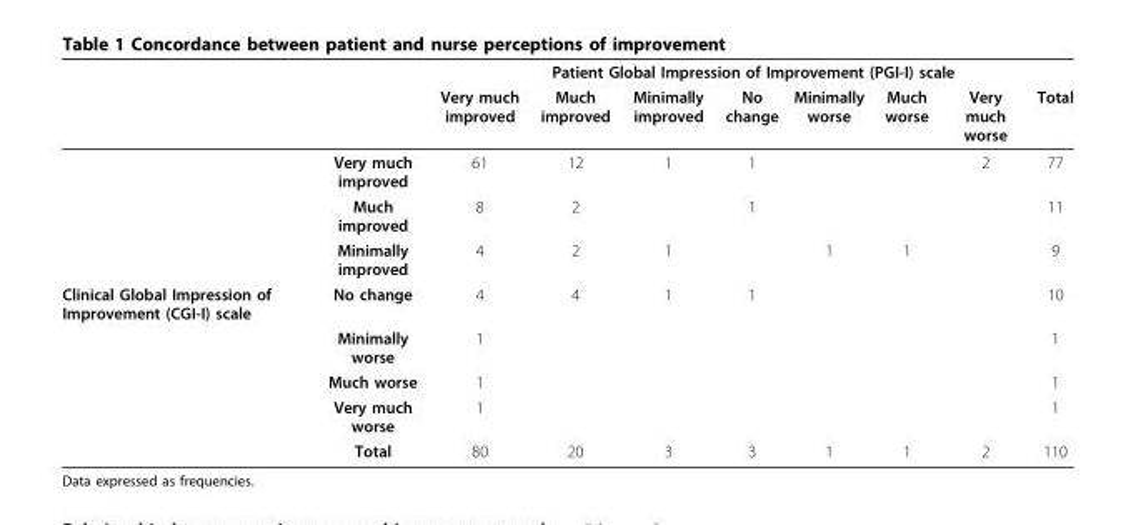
<table><thead><tr><td rowspan="2"></td><td rowspan="2"></td><td colspan="8">Patient Global Impression of Improvement (PGI-I) scale</td></tr><tr><td>Very much improved</td><td>Much improved</td><td>Minimally improved</td><td>No change</td><td>Minimally worse</td><td>Much worse</td><td>Very much worse</td><td>Total</td></tr></thead><tbody><tr><td></td><td>Very much improved</td><td>61</td><td>12</td><td>1</td><td>1</td><td></td><td></td><td>2</td><td>77</td></tr><tr><td></td><td>Much improved</td><td>8</td><td>2</td><td></td><td>1</td><td></td><td></td><td></td><td>11</td></tr><tr><td></td><td>Minimally improved</td><td>4</td><td>2</td><td>1</td><td></td><td>1</td><td>1</td><td></td><td>9</td></tr><tr><td rowspan="5">Clinical Global Impression of Improvement (CGI-I) scale</td><td>No change</td><td>4</td><td>4</td><td>1</td><td>1</td><td></td><td></td><td></td><td>10</td></tr><tr><td>Minimally worse</td><td>1</td><td></td><td></td><td></td><td></td><td></td><td></td><td>1</td></tr><tr><td>Much worse</td><td>1</td><td></td><td></td><td></td><td></td><td></td><td></td><td>1</td></tr><tr><td>Very much worse</td><td>1</td><td></td><td></td><td></td><td></td><td></td><td></td><td>1</td></tr><tr><td>Total</td><td>80</td><td>20</td><td>3</td><td>3</td><td>1</td><td>1</td><td>2</td><td>110</td></tr></tbody></table>